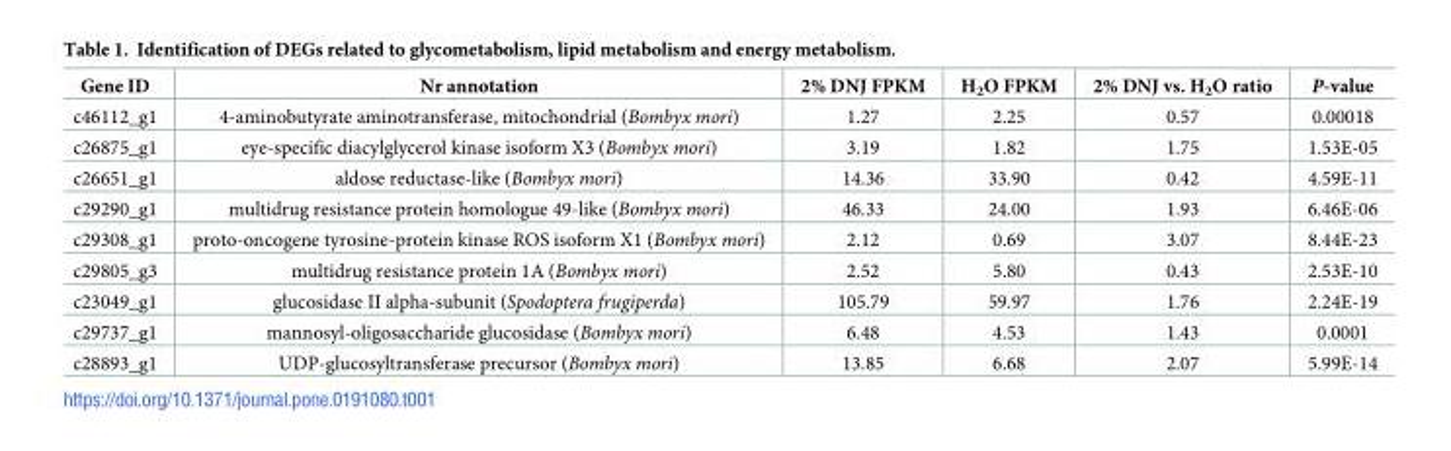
<table><thead><tr><td>Gene ID</td><td>Nr annotation</td><td>2% DNJ FPKM</td><td>H<sub>2</sub>O FPKM</td><td>2% DNJ vs. H<sub>2</sub>O ratio</td><td>P-value</td></tr></thead><tbody><tr><td>c46112_g1</td><td>4-aminobutyrate aminotransferase, mitochondrial (Bombyx mori)</td><td>1.27</td><td>2.25</td><td>0.57</td><td>0.00018</td></tr><tr><td>c26875_g1</td><td>eye-specific diacylglycerol kinase isoform X3 (Bombyx mori)</td><td>3.19</td><td>1.82</td><td>1.75</td><td>1.53E-05</td></tr><tr><td>c26651_g1</td><td>aldose reductase-like (Bombyx mori)</td><td>14.36</td><td>33.90</td><td>0.42</td><td>4.59E-11</td></tr><tr><td>c29290_g1</td><td>multidrug resistance protein homologue 49-like (Bombyx mori)</td><td>46.33</td><td>24.00</td><td>1.93</td><td>6.46E-06</td></tr><tr><td>c29308_g1</td><td>proto-oncogene tyrosine-protein kinase ROS isoform X1 (Bombyx mori)</td><td>2.12</td><td>0.69</td><td>3.07</td><td>8.44E-23</td></tr><tr><td>c29805_g3</td><td>multidrug resistance protein 1A (Bombyx mori)</td><td>2.52</td><td>5.80</td><td>0.43</td><td>2.53E-10</td></tr><tr><td>c23049_g1</td><td>glucosidase II alpha-subunit (Spodoptera frugiperda)</td><td>105.79</td><td>59.97</td><td>1.76</td><td>2.24E-19</td></tr><tr><td>c29737_g1</td><td>mannosyl-oligosaccharide glucosidase (Bombyx mori)</td><td>6.48</td><td>4.53</td><td>1.43</td><td>0.0001</td></tr><tr><td>c28893_g1</td><td>UDP-glucosyltransferase precursor (Bombyx mori)</td><td>13.85</td><td>6.68</td><td>2.07</td><td>5.99E-14</td></tr></tbody></table>